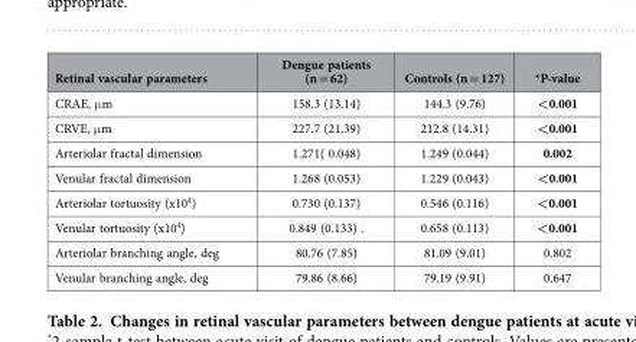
<table><thead><tr><td>Retinal vascular parameters</td><td>Dengue patients (n = 62)</td><td>Controls (n = 127)</td><td>*P-value</td></tr></thead><tbody><tr><td>CRAE, μ m</td><td>158.3 (13.14)</td><td>144.3 (9.76)</td><td>&lt;0.001</td></tr><tr><td>CRVE, μ m</td><td>227.7 (21.39)</td><td>212.8 (14.31)</td><td>&lt;0.001</td></tr><tr><td>Arteriolar fractal dimension</td><td>1.271( 0.048)</td><td>1.249 (0.044)</td><td>0.002</td></tr><tr><td>Venular fractal dimension</td><td>1.268 (0.053)</td><td>1.229 (0.043)</td><td>&lt;0.001</td></tr><tr><td>Arteriolar tortuosity (x10<sup>4</sup>)</td><td>0.730 (0.137)</td><td>0.546 (0.116)</td><td>&lt;0.001</td></tr><tr><td>Venular tortuosity (x10<sup>4</sup>)</td><td>0.849 (0.133) .</td><td>0.658 (0.113)</td><td>&lt;0.001</td></tr><tr><td>Arteriolar branching angle, deg</td><td>80.76 (7.85)</td><td>81.09 (9.01)</td><td>0.802</td></tr><tr><td>Venular branching angle, deg</td><td>79.86 (8.66)</td><td>79.19 (9.91)</td><td>0.647</td></tr></tbody></table>